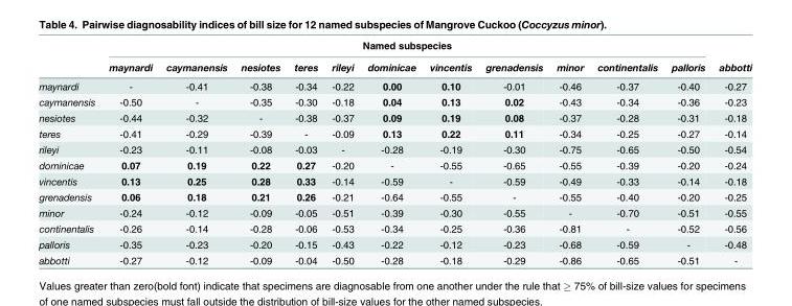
<table><thead><tr><td rowspan="2"></td><td colspan="11">Named subspecies</td><td rowspan="2">abbotti</td></tr><tr><td>maynardi</td><td>caymanensis</td><td>nesiotes</td><td>teres</td><td>rileyi</td><td>dominicae</td><td>vincentis</td><td>grenadensis</td><td>minor</td><td>continentalis</td><td>palloris</td></tr></thead><tbody><tr><td>maynardi</td><td>-</td><td>-0.41</td><td>-0.38</td><td>-0.34</td><td>-0.22</td><td>0.00</td><td>0.10</td><td>-0.01</td><td>-0.46</td><td>-0.37</td><td>-0.40</td><td>-0.27</td></tr><tr><td>caymanensis</td><td>-0.50</td><td>-</td><td>-0.35</td><td>-0.30</td><td>-0.18</td><td>0.04</td><td>0.13</td><td>0.02</td><td>-0.43</td><td>-0.34</td><td>-0.36</td><td>-0.23</td></tr><tr><td>nesiotes</td><td>-0.44</td><td>-0.32</td><td>-</td><td>-0.38</td><td>-0.37</td><td>0.09</td><td>0.19</td><td>0.08</td><td>-0.37</td><td>-0.28</td><td>-0.31</td><td>-0.18</td></tr><tr><td>teres</td><td>-0.41</td><td>-0.29</td><td>-0.39</td><td>-</td><td>-0.09</td><td>0.13</td><td>0.22</td><td>0.11</td><td>-0.34</td><td>-0.25</td><td>-0.27</td><td>-0.14</td></tr><tr><td>rileyi</td><td>-0.23</td><td>-0.11</td><td>-0.08</td><td>-0.03</td><td>-</td><td>-0.28</td><td>-0.19</td><td>-0.30</td><td>-0.75</td><td>-0.65</td><td>-0.50</td><td>-0.54</td></tr><tr><td>dominicae</td><td>0.07</td><td>0.19</td><td>0.22</td><td>0.27</td><td>-0.20</td><td>-</td><td>-0.55</td><td>-0.65</td><td>-0.55</td><td>-0.39</td><td>-0.20</td><td>-0.24</td></tr><tr><td>vincentis</td><td>0.13</td><td>0.25</td><td>0.28</td><td>0.33</td><td>-0.14</td><td>-0.59</td><td>-</td><td>-0.59</td><td>-0.49</td><td>-0.33</td><td>-0.14</td><td>-0.18</td></tr><tr><td>grenadensis</td><td>0.06</td><td>0.18</td><td>0.21</td><td>0.26</td><td>-0.21</td><td>-0.64</td><td>-0.55</td><td>-</td><td>-0.55</td><td>-0.40</td><td>-0.20</td><td>-0.25</td></tr><tr><td>minor</td><td>-0.24</td><td>-0.12</td><td>-0.09</td><td>-0.05</td><td>-0.51</td><td>-0.39</td><td>-0.30</td><td>-0.55</td><td>-</td><td>-0.70</td><td>-0.51</td><td>-0.55</td></tr><tr><td>continentalis</td><td>-0.26</td><td>-0.14</td><td>-0.28</td><td>-0.06</td><td>-0.53</td><td>-0.34</td><td>-0.25</td><td>-0.36</td><td>-0.81</td><td>-</td><td>-0.52</td><td>-0.56</td></tr><tr><td>palloris</td><td>-0.35</td><td>-0.23</td><td>-0.20</td><td>-0.15</td><td>-0.43</td><td>-0.22</td><td>-0.12</td><td>-0.23</td><td>-0.68</td><td>-0.59</td><td>-</td><td>-0.48</td></tr><tr><td>abbotti</td><td>-0.27</td><td>-0.12</td><td>-0.09</td><td>-0.04</td><td>-0.50</td><td>-0.28</td><td>-0.18</td><td>-0.29</td><td>-0.86</td><td>-0.65</td><td>-0.51</td><td>-</td></tr></tbody></table>